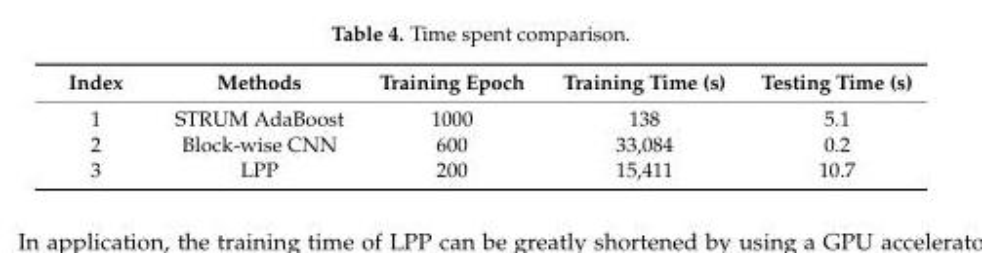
<table><thead><tr><td>Index</td><td>Methods</td><td>Training Epoch</td><td>Training Time (s)</td><td>Testing Time (s)</td></tr></thead><tbody><tr><td>1</td><td>STRUM AdaBoost</td><td>1000</td><td>138</td><td>5.1</td></tr><tr><td>2</td><td>Block-wise CNN</td><td>600</td><td>33,084</td><td>0.2</td></tr><tr><td>3</td><td>LPP</td><td>200</td><td>15,411</td><td>10.7</td></tr></tbody></table>